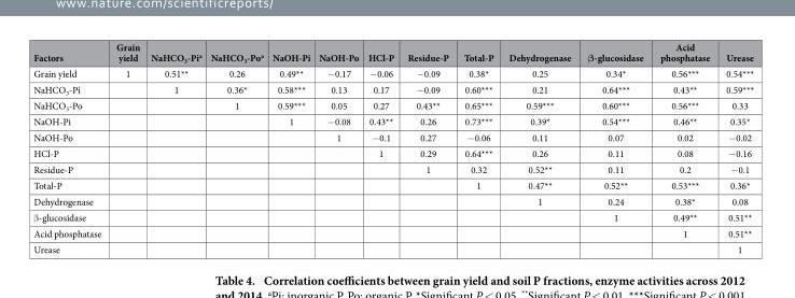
<table><thead><tr><td>Factors</td><td>Grain yield</td><td>NaHCO<sub>3</sub>-Pi<sup>a</sup></td><td>NaHCO<sub>3</sub>-Po<sup>a</sup></td><td>NaOH-Pi</td><td>NaOH-Po</td><td>HCl-P</td><td>Residue-P</td><td>Total-P</td><td>Dehydrogenase</td><td>β-glucosidase</td><td>Acid phosphatase</td><td>Urease</td></tr></thead><tbody><tr><td>Grain yield</td><td>1</td><td>0.51**</td><td>0.26</td><td>0.49**</td><td>− 0.17</td><td>− 0.06</td><td>− 0.09</td><td>0.38*</td><td>0.25</td><td>0.34*</td><td>0.56***</td><td>0.54***</td></tr><tr><td>NaHCO<sub>3</sub>-Pi</td><td></td><td>1</td><td>0.36*</td><td>0.58***</td><td>0.13</td><td>0.17</td><td>− 0.09</td><td>0.60***</td><td>0.21</td><td>0.64***</td><td>0.43**</td><td>0.59***</td></tr><tr><td>NaHCO<sub>3</sub>-Po</td><td></td><td></td><td>1</td><td>0.59***</td><td>0.05</td><td>0.27</td><td>0.43**</td><td>0.65***</td><td>0.59***</td><td>0.60***</td><td>0.56***</td><td>0.33</td></tr><tr><td>NaOH-Pi</td><td></td><td></td><td></td><td>1</td><td>− 0.08</td><td>0.43**</td><td>0.26</td><td>0.73***</td><td>0.39*</td><td>0.54***</td><td>0.46**</td><td>0.35*</td></tr><tr><td>NaOH-Po</td><td></td><td></td><td></td><td></td><td>1</td><td>− 0.1</td><td>0.27</td><td>− 0.06</td><td>0.11</td><td>0.07</td><td>0.02</td><td>− 0.02</td></tr><tr><td>HCl-P</td><td></td><td></td><td></td><td></td><td></td><td>1</td><td>0.29</td><td>0.64***</td><td>0.26</td><td>0.11</td><td>0.08</td><td>− 0.16</td></tr><tr><td>Residue-P</td><td></td><td></td><td></td><td></td><td></td><td></td><td>1</td><td>0.32</td><td>0.52**</td><td>0.11</td><td>0.2</td><td>− 0.1</td></tr><tr><td>Total-P</td><td></td><td></td><td></td><td></td><td></td><td></td><td></td><td>1</td><td>0.47**</td><td>0.52**</td><td>0.53***</td><td>0.36*</td></tr><tr><td>Dehydrogenase</td><td></td><td></td><td></td><td></td><td></td><td></td><td></td><td></td><td>1</td><td>0.24</td><td>0.38*</td><td>0.08</td></tr><tr><td>β -glucosidase</td><td></td><td></td><td></td><td></td><td></td><td></td><td></td><td></td><td></td><td>1</td><td>0.49**</td><td>0.51**</td></tr><tr><td>Acid phosphatase</td><td></td><td></td><td></td><td></td><td></td><td></td><td></td><td></td><td></td><td></td><td>1</td><td>0.51**</td></tr><tr><td>Urease</td><td></td><td></td><td></td><td></td><td></td><td></td><td></td><td></td><td></td><td></td><td></td><td>1</td></tr></tbody></table>